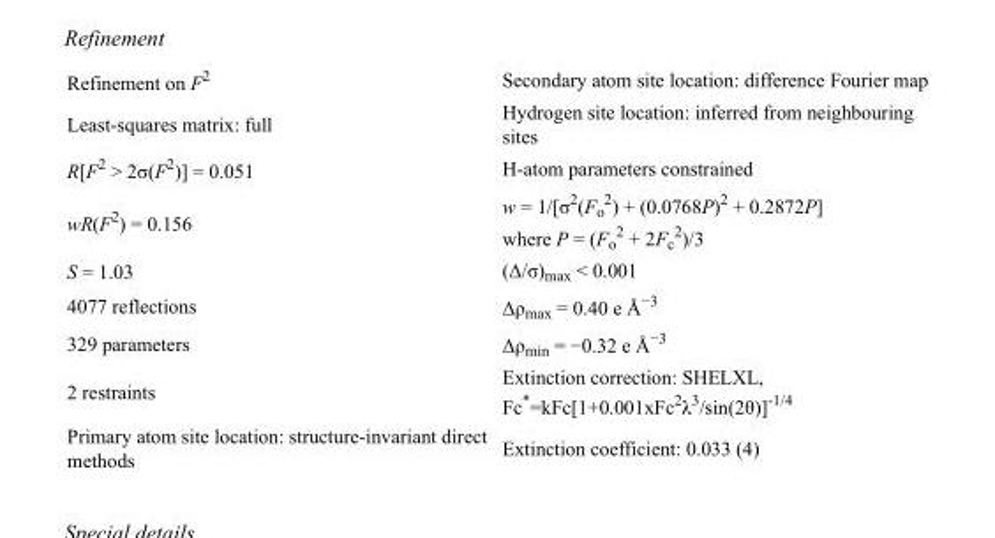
<table><tbody><tr><td>Refinement on F<sup>2</sup></td><td>Secondary atom site location: difference Fourier map</td></tr><tr><td>Least-squares matrix: full</td><td>Hydrogen site location: inferred from neighbouring sites</td></tr><tr><td>R[F<sup>2</sup> &gt; 2σ(F<sup>2</sup>)] = 0.051</td><td>H-atom parameters constrained</td></tr><tr><td>wR(F<sup>2</sup>) = 0.156</td><td>w = 1/[σ<sup>2</sup>(F<sub>o</sub> <sup>2</sup>) + (0.0768P)<sup>2</sup> + 0.2872P] where P = (F<sub>o</sub> <sup>2</sup> + 2F<sub>c</sub> <sup>2</sup>)/3</td></tr><tr><td>S = 1.03</td><td>(Δ/σ)<sub>max</sub> &lt; 0.001</td></tr><tr><td>4077 reflections</td><td>Δρ<sub>max</sub> = 0.40 e Å<sup>−3</sup></td></tr><tr><td>329 parameters</td><td>Δρ<sub>min</sub> = −0.32 e Å<sup>−3</sup></td></tr><tr><td>2 restraints</td><td>Extinction correction: SHELXL, Fc*=kFc[1+0.001xFc<sup>2</sup>λ<sup>3</sup>/sin(2θ)]<sup>-1/4</sup></td></tr><tr><td>Primary atom site location: structure-invariant direct methods</td><td>Extinction coefficient: 0.033 (4)</td></tr></tbody></table>